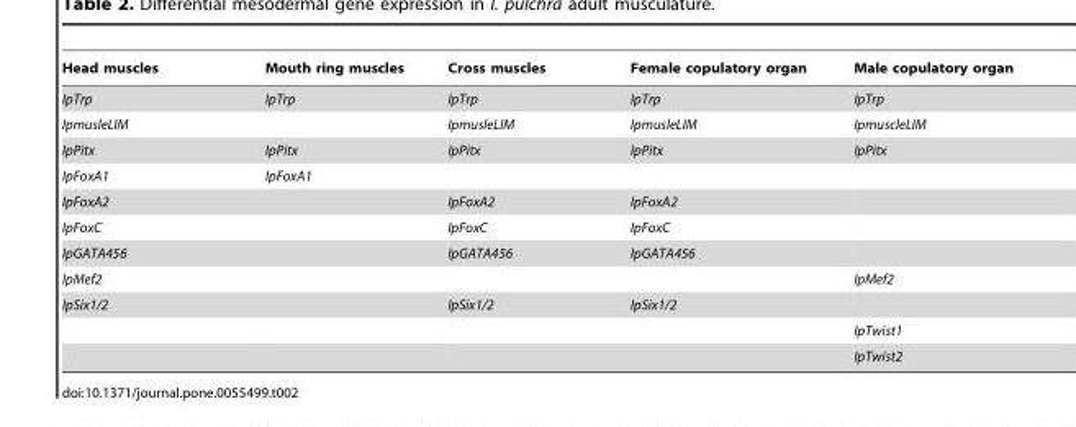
<table><thead><tr><td>Head muscles</td><td>Mouth ring muscles</td><td>Cross muscles</td><td>Female copulatory organ</td><td>Male copulatory organ</td></tr></thead><tbody><tr><td>IpTrp</td><td>IpTrp</td><td>IpTrp</td><td>IpTrp</td><td>IpTrp</td></tr><tr><td>IpmusleLIM</td><td></td><td>IpmusleLIM</td><td>IpmusleLIM</td><td>IpmuscleLIM</td></tr><tr><td>IpPitx</td><td>IpPitx</td><td>IpPitx</td><td>IpPitx</td><td>IpPitx</td></tr><tr><td>IpFoxA1</td><td>IpFoxA1</td><td></td><td></td><td></td></tr><tr><td>IpFoxA2</td><td></td><td>IpFoxA2</td><td>IpFoxA2</td><td></td></tr><tr><td>IpFoxC</td><td></td><td>IpFoxC</td><td>IpFoxC</td><td></td></tr><tr><td>IpGATA456</td><td></td><td>IpGATA456</td><td>IpGATA456</td><td></td></tr><tr><td>IpMef2</td><td></td><td></td><td></td><td>IpMef2</td></tr><tr><td rowspan="3">IpSix1/2</td><td></td><td>IpSix1/2</td><td>IpSix1/2</td><td></td></tr><tr><td></td><td></td><td></td><td>IpTwist1</td></tr><tr><td></td><td></td><td></td><td>IpTwist2</td></tr></tbody></table>